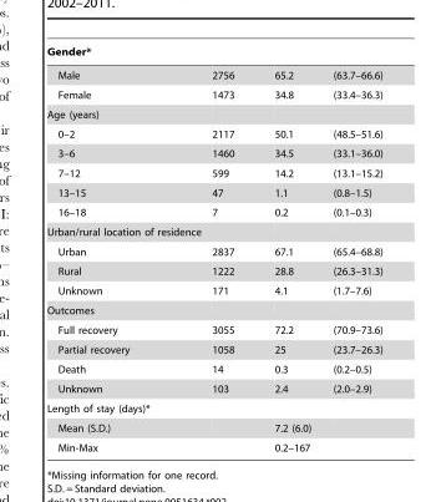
<table><thead><tr><td>Gender*</td><td></td><td></td><td></td></tr></thead><tbody><tr><td>Male</td><td>2756</td><td>65.2</td><td>(63.7–66.6)</td></tr><tr><td>Female</td><td>1473</td><td>34.8</td><td>(33.4–36.3)</td></tr><tr><td colspan="4">Age (years)</td></tr><tr><td>0–2</td><td>2117</td><td>50.1</td><td>(48.5–51.6)</td></tr><tr><td>3–6</td><td>1460</td><td>34.5</td><td>(33.1–36.0)</td></tr><tr><td>7–12</td><td>599</td><td>14.2</td><td>(13.1–15.2)</td></tr><tr><td>13–15</td><td>47</td><td>1.1</td><td>(0.8–1.5)</td></tr><tr><td>16–18</td><td>7</td><td>0.2</td><td>(0.1–0.3)</td></tr><tr><td colspan="4">Urban/rural location of residence</td></tr><tr><td>Urban</td><td>2837</td><td>67.1</td><td>(65.4–68.8)</td></tr><tr><td>Rural</td><td>1222</td><td>28.8</td><td>(26.3–31.3)</td></tr><tr><td>Unknown</td><td>171</td><td>4.1</td><td>(1.7–7.6)</td></tr><tr><td colspan="4">Outcomes</td></tr><tr><td>Full recovery</td><td>3055</td><td>72.2</td><td>(70.9–73.6)</td></tr><tr><td>Partial recovery</td><td>1058</td><td>25</td><td>(23.7–26.3)</td></tr><tr><td>Death</td><td>14</td><td>0.3</td><td>(0.2–0.5)</td></tr><tr><td>Unknown</td><td>103</td><td>2.4</td><td>(2.0–2.9)</td></tr><tr><td colspan="4">Length of stay (days)*</td></tr><tr><td>Mean (S.D.)</td><td></td><td>7.2 (6.0)</td><td></td></tr><tr><td>Min-Max</td><td></td><td>0.2–167</td><td></td></tr></tbody></table>